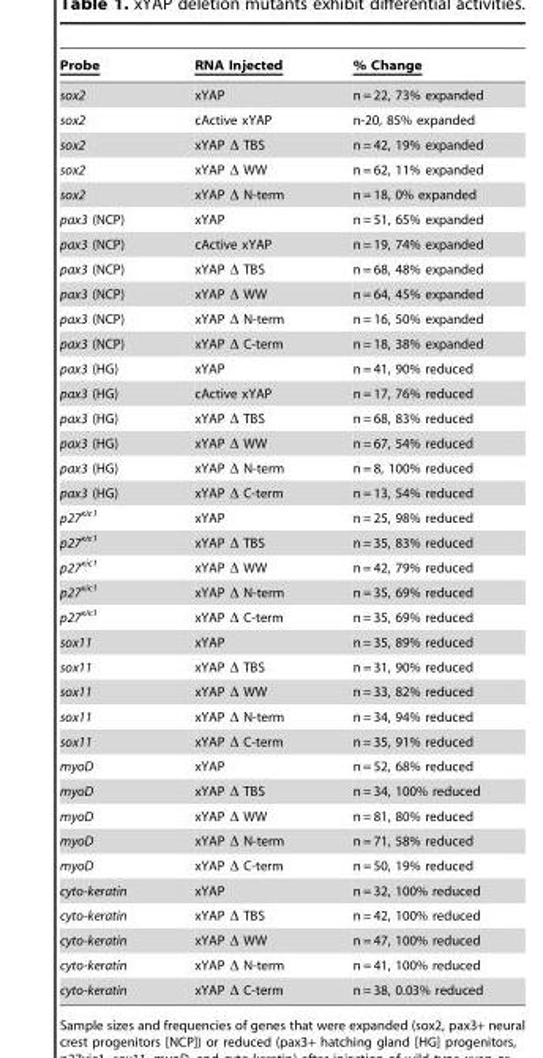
<table><thead><tr><td>Probe</td><td>RNA Injected</td><td>% Change</td></tr></thead><tbody><tr><td>sox2</td><td>xYAP</td><td>n = 22, 73% expanded</td></tr><tr><td>sox2</td><td>cActive xYAP</td><td>n-20, 85% expanded</td></tr><tr><td>sox2</td><td>xYAP Δ TBS</td><td>n = 42, 19% expanded</td></tr><tr><td>sox2</td><td>xYAP Δ WW</td><td>n = 62, 11% expanded</td></tr><tr><td>sox2</td><td>xYAP Δ N-term</td><td>n = 18, 0% expanded</td></tr><tr><td>pax3 (NCP)</td><td>xYAP</td><td>n = 51, 65% expanded</td></tr><tr><td>pax3 (NCP)</td><td>cActive xYAP</td><td>n = 19, 74% expanded</td></tr><tr><td>pax3 (NCP)</td><td>xYAP Δ TBS</td><td>n = 68, 48% expanded</td></tr><tr><td>pax3 (NCP)</td><td>xYAP Δ WW</td><td>n = 64, 45% expanded</td></tr><tr><td>pax3 (NCP)</td><td>xYAP Δ N-term</td><td>n = 16, 50% expanded</td></tr><tr><td>pax3 (NCP)</td><td>xYAP Δ C-term</td><td>n = 18, 38% expanded</td></tr><tr><td>pax3 (HG)</td><td>xYAP</td><td>n = 41, 90% reduced</td></tr><tr><td>pax3 (HG)</td><td>cActive xYAP</td><td>n = 17, 76% reduced</td></tr><tr><td>pax3 (HG)</td><td>xYAP Δ TBS</td><td>n = 68, 83% reduced</td></tr><tr><td>pax3 (HG)</td><td>xYAP Δ WW</td><td>n = 67, 54% reduced</td></tr><tr><td>pax3 (HG)</td><td>xYAP Δ N-term</td><td>n = 8, 100% reduced</td></tr><tr><td>pax3 (HG)</td><td>xYAP Δ C-term</td><td>n = 13, 54% reduced</td></tr><tr><td>p27<sup>xic1</sup></td><td>xYAP</td><td>n = 25, 98% reduced</td></tr><tr><td>p27<sup>xic1</sup></td><td>xYAP Δ TBS</td><td>n = 35, 83% reduced</td></tr><tr><td>p27<sup>xic1</sup></td><td>xYAP Δ WW</td><td>n = 42, 79% reduced</td></tr><tr><td>p27<sup>xic1</sup></td><td>xYAP Δ N-term</td><td>n = 35, 69% reduced</td></tr><tr><td>p27<sup>xic1</sup></td><td>xYAP Δ C-term</td><td>n = 35, 69% reduced</td></tr><tr><td>sox11</td><td>xYAP</td><td>n = 35, 89% reduced</td></tr><tr><td>sox11</td><td>xYAP Δ TBS</td><td>n = 31, 90% reduced</td></tr><tr><td>sox11</td><td>xYAP Δ WW</td><td>n = 33, 82% reduced</td></tr><tr><td>sox11</td><td>xYAP Δ N-term</td><td>n = 34, 94% reduced</td></tr><tr><td>sox11</td><td>xYAP Δ C-term</td><td>n = 35, 91% reduced</td></tr><tr><td>myoD</td><td>xYAP</td><td>n = 52, 68% reduced</td></tr><tr><td>myoD</td><td>xYAP Δ TBS</td><td>n = 34, 100% reduced</td></tr><tr><td>myoD</td><td>xYAP Δ WW</td><td>n = 81, 80% reduced</td></tr><tr><td>myoD</td><td>xYAP Δ N-term</td><td>n = 71, 58% reduced</td></tr><tr><td>myoD</td><td>xYAP Δ C-term</td><td>n = 50, 19% reduced</td></tr><tr><td>cyto-keratin</td><td>xYAP</td><td>n = 32, 100% reduced</td></tr><tr><td>cyto-keratin</td><td>xYAP Δ TBS</td><td>n = 42, 100% reduced</td></tr><tr><td>cyto-keratin</td><td>xYAP Δ WW</td><td>n = 47, 100% reduced</td></tr><tr><td>cyto-keratin</td><td>xYAP Δ N-term</td><td>n = 41, 100% reduced</td></tr><tr><td>cyto-keratin</td><td>xYAP Δ C-term</td><td>n = 38, 0.03% reduced</td></tr></tbody></table>